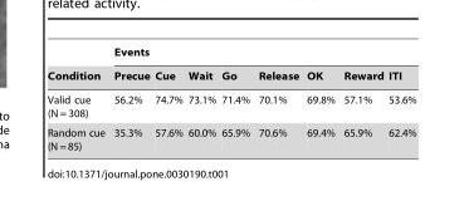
<table><thead><tr><td rowspan="2">Condition</td><td colspan="8">Events</td></tr><tr><td>Precue</td><td>Cue</td><td>Wait</td><td>Go</td><td>Release</td><td>OK</td><td>Reward</td><td>ITI</td></tr></thead><tbody><tr><td>Valid cue (N = 308)</td><td>56.2%</td><td>74.7%</td><td>73.1%</td><td>71.4%</td><td>70.1%</td><td>69.8%</td><td>57.1%</td><td>53.6%</td></tr><tr><td>Random cue (N = 85)</td><td>35.3%</td><td>57.6%</td><td>60.0%</td><td>65.9%</td><td>70.6%</td><td>69.4%</td><td>65.9%</td><td>62.4%</td></tr></tbody></table>